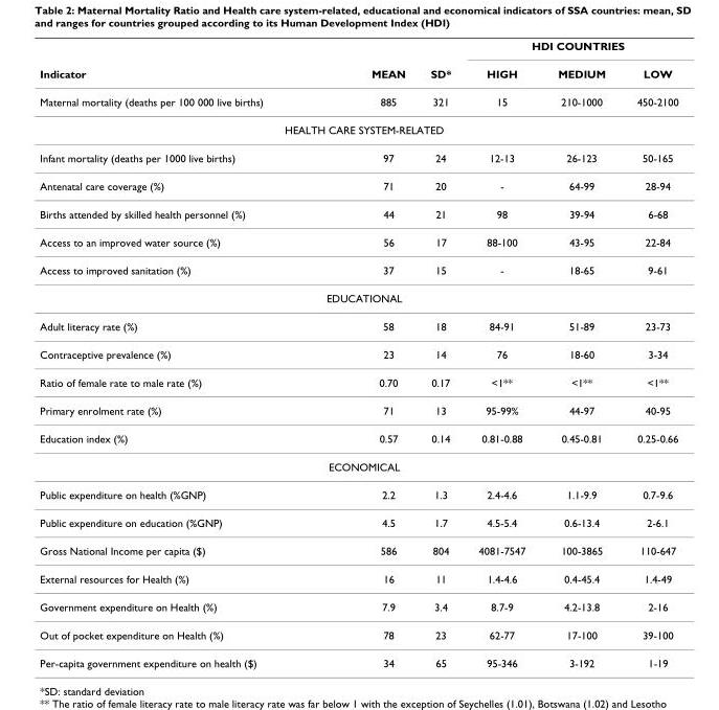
<table><thead><tr><td rowspan="2">Indicator</td><td rowspan="2">MEAN</td><td rowspan="2">SD*</td><td colspan="3">HDI COUNTRIES</td></tr><tr><td>HIGH</td><td>MEDIUM</td><td>LOW</td></tr></thead><tbody><tr><td>Maternal mortality (deaths per 100 000 live births)</td><td>885</td><td>321</td><td>15</td><td>210-1000</td><td>450-2100</td></tr><tr><td colspan="6">HEALTH CARE SYSTEM-RELATED</td></tr><tr><td>Infant mortality (deaths per 1000 live births)</td><td>97</td><td>24</td><td>12-13</td><td>26-123</td><td>50-165</td></tr><tr><td>Antenatal care coverage (%)</td><td>71</td><td>20</td><td>-</td><td>64-99</td><td>28-94</td></tr><tr><td>Births attended by skilled health personnel (%)</td><td>44</td><td>21</td><td>98</td><td>39-94</td><td>6-68</td></tr><tr><td>Access to an improved water source (%)</td><td>56</td><td>17</td><td>88-100</td><td>43-95</td><td>22-84</td></tr><tr><td>Access to improved sanitation (%)</td><td>37</td><td>15</td><td>-</td><td>18-65</td><td>9-61</td></tr><tr><td colspan="6">EDUCATIONAL</td></tr><tr><td>Adult literacy rate (%)</td><td>58</td><td>18</td><td>84-91</td><td>51-89</td><td>23-73</td></tr><tr><td>Contraceptive prevalence (%)</td><td>23</td><td>14</td><td>76</td><td>18-60</td><td>3-34</td></tr><tr><td>Ratio of female rate to male rate (%)</td><td>0.70</td><td>0.17</td><td>&lt;1**</td><td>&lt;1**</td><td>&lt;1**</td></tr><tr><td>Primary enrolment rate (%)</td><td>71</td><td>13</td><td>95-99%</td><td>44-97</td><td>40-95</td></tr><tr><td>Education index (%)</td><td>0.57</td><td>0.14</td><td>0.81-0.88</td><td>0.45-0.81</td><td>0.25-0.66</td></tr><tr><td colspan="6">ECONOMICAL</td></tr><tr><td>Public expenditure on health (%GNP)</td><td>2.2</td><td>1.3</td><td>2.4-4.6</td><td>1.1-9.9</td><td>0.7-9.6</td></tr><tr><td>Public expenditure on education (%GNP)</td><td>4.5</td><td>1.7</td><td>4.5-5.4</td><td>0.6-13.4</td><td>2-6.1</td></tr><tr><td>Gross National Income per capita ($)</td><td>586</td><td>804</td><td>4081-7547</td><td>100-3865</td><td>110-647</td></tr><tr><td>External resources for Health (%)</td><td>16</td><td>11</td><td>1.4-4.6</td><td>0.4-45.4</td><td>1.4-49</td></tr><tr><td>Government expenditure on Health (%)</td><td>7.9</td><td>3.4</td><td>8.7-9</td><td>4.2-13.8</td><td>2-16</td></tr><tr><td>Out of pocket expenditure on Health (%)</td><td>78</td><td>23</td><td>62-77</td><td>17-100</td><td>39-100</td></tr><tr><td>Per-capita government expenditure on health ($)</td><td>34</td><td>65</td><td>95-346</td><td>3-192</td><td>1-19</td></tr></tbody></table>